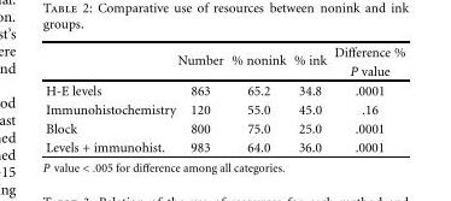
<table><thead><tr><td rowspan="2"></td><td rowspan="2">Number</td><td rowspan="2">% nonink</td><td rowspan="2">% ink</td><td rowspan="2">Difference % P value</td></tr><tr></tr></thead><tbody><tr><td>H-E levels</td><td>863</td><td>65.2</td><td>34.8</td><td>.0001</td></tr><tr><td>Immunohistochemistry</td><td>120</td><td>55.0</td><td>45.0</td><td>.16</td></tr><tr><td>Block</td><td>800</td><td>75.0</td><td>25.0</td><td>.0001</td></tr><tr><td>Levels + immunohist.</td><td>983</td><td>64.0</td><td>36.0</td><td>.0001</td></tr></tbody></table>